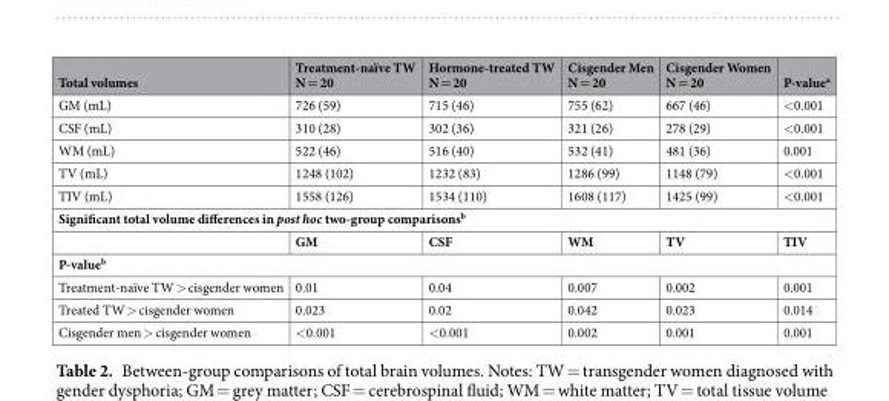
<table><thead><tr><td>Total volumes</td><td>Treatment-naïve TW N = 20</td><td>Hormone-treated TW N = 20</td><td>Cisgender Men N = 20</td><td>Cisgender Women N = 20</td><td>P-value<sup>a</sup></td></tr></thead><tbody><tr><td>GM (mL)</td><td>726 (59)</td><td>715 (46)</td><td>755 (62)</td><td>667 (46)</td><td>&lt;0.001</td></tr><tr><td>CSF (mL)</td><td>310 (28)</td><td>302 (36)</td><td>321 (26)</td><td>278 (29)</td><td>&lt;0.001</td></tr><tr><td>WM (mL)</td><td>522 (46)</td><td>516 (40)</td><td>532 (41)</td><td>481 (36)</td><td>0.001</td></tr><tr><td>TV (mL)</td><td>1248 (102)</td><td>1232 (83)</td><td>1286 (99)</td><td>1148 (79)</td><td>&lt;0.001</td></tr><tr><td>TIV (mL)</td><td>1558 (126)</td><td>1534 (110)</td><td>1608 (117)</td><td>1425 (99)</td><td>&lt;0.001</td></tr><tr><td colspan="6">Significant total volume differences in post hoc two-group comparisons<sup>b</sup></td></tr><tr><td></td><td>GM</td><td>CSF</td><td>WM</td><td>TV</td><td>TIV</td></tr><tr><td colspan="6">P-value<sup>b</sup></td></tr><tr><td>Treatment-naïve TW &gt; cisgender women</td><td>0.01</td><td>0.04</td><td>0.007</td><td>0.002</td><td>0.001</td></tr><tr><td>Treated TW &gt; cisgender women</td><td>0.023</td><td>0.02</td><td>0.042</td><td>0.023</td><td>0.014</td></tr><tr><td>Cisgender men &gt; cisgender women</td><td>&lt;0.001</td><td>&lt;0.001</td><td>0.002</td><td>0.001</td><td>0.001</td></tr></tbody></table>